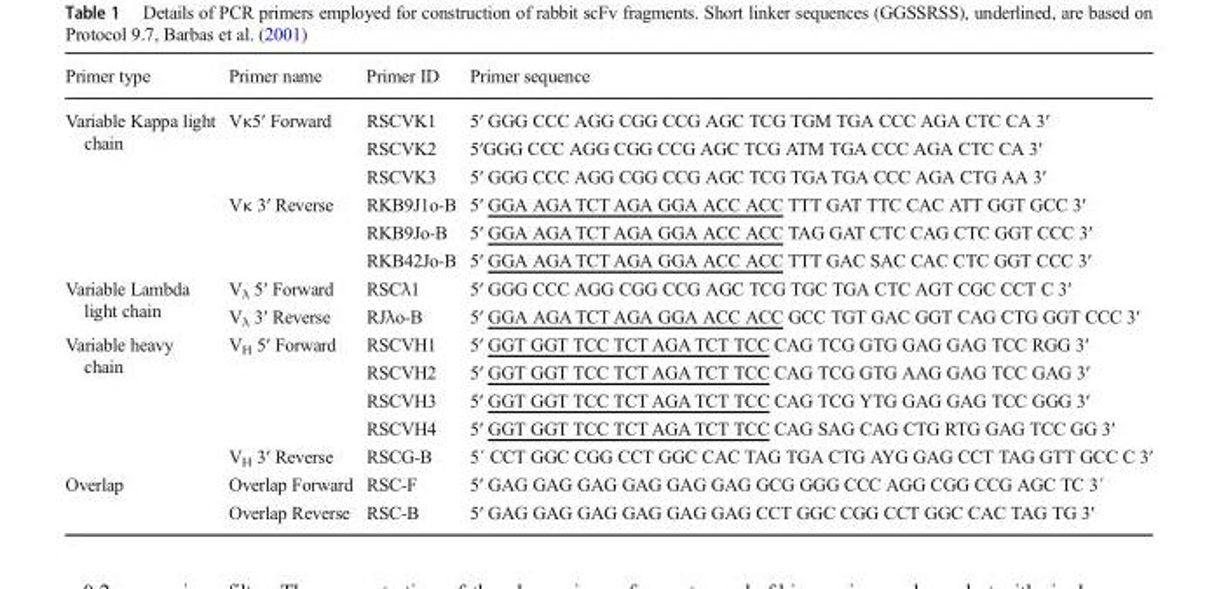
<table><thead><tr><td>Primer type</td><td>Primer name</td><td>Primer ID</td><td>Primer sequence</td></tr></thead><tbody><tr><td rowspan="6">Variable Kappa light chain</td><td rowspan="3">Vκ5′ Forward</td><td>RSCVK1</td><td>5′ GGG CCC AGG CGG CCG AGC TCG TGM TGA CCC AGA CTC CA 3′</td></tr><tr><td>RSCVK2</td><td>5′GGG CCC AGG CGG CCG AGC TCG ATM TGA CCC AGA CTC CA 3′</td></tr><tr><td>RSCVK3</td><td>5′ GGG CCC AGG CGG CCG AGC TCG TGATGA CCC AGA CTG AA 3′</td></tr><tr><td rowspan="3">Vκ 3′ Reverse</td><td>RKB9J1o-B</td><td>5′ GGA AGA TCT AGA GGA ACC ACC TTT GAT TTC CAC ATT GGT GCC 3′</td></tr><tr><td>RKB9Jo-B</td><td>5′ GGA AGA TCT AGA GGA ACC ACC TAG GAT CTC CAG CTC GGT CCC 3′</td></tr><tr><td>RKB42Jo-B</td><td>5′ GGA AGA TCT AGA GGA ACC ACC TTT GAC SAC CAC CTC GGT CCC 3′</td></tr><tr><td rowspan="2">Variable Lambda light chain</td><td>V<sub>λ</sub> 5′ Forward</td><td>RSCλ1</td><td>5′ GGG CCC AGG CGG CCG AGC TCG TGC TGA CTC AGT CGC CCT C 3′</td></tr><tr><td>V<sub>λ</sub> 3′ Reverse</td><td>RJλo-B</td><td>5′ GGA AGA TCT AGA GGA ACC ACC GCC TGT GAC GGT CAG CTG GGT CCC 3′</td></tr><tr><td rowspan="5">Variable heavy chain</td><td rowspan="4">V<sub>H</sub> 5′ Forward</td><td>RSCVH1</td><td>5′ GGT GGT TCC TCT AGA TCT TCC CAG TCG GTG GAG GAG TCC RGG 3′</td></tr><tr><td>RSCVH2</td><td>5′ GGT GGT TCC TCT AGA TCT TCC CAG TCG GTG AAG GAG TCC GAG 3′</td></tr><tr><td>RSCVH3</td><td>5′ GGT GGT TCC TCT AGA TCT TCC CAG TCG YTG GAG GAG TCC GGG 3′</td></tr><tr><td>RSCVH4</td><td>5′ GGT GGT TCC TCT AGA TCT TCC CAG SAG CAG CTG RTG GAG TCC GG 3′</td></tr><tr><td>V<sub>H</sub> 3′ Reverse</td><td>RSCG-B</td><td>5´ CCT GGC CGG CCT GGC CAC TAG TGA CTG AYG GAG CCT TAG GTT GCC C 3′</td></tr><tr><td rowspan="2">Overlap</td><td>Overlap Forward</td><td>RSC-F</td><td>5′ GAG GAG GAG GAG GAG GAG GCG GGG CCC AGG CGG CCG AGC TC 3´</td></tr><tr><td>Overlap Reverse</td><td>RSC-B</td><td>5′ GAG GAG GAG GAG GAG GAG CCT GGC CGG CCT GGC CAC TAG TG 3′</td></tr></tbody></table>